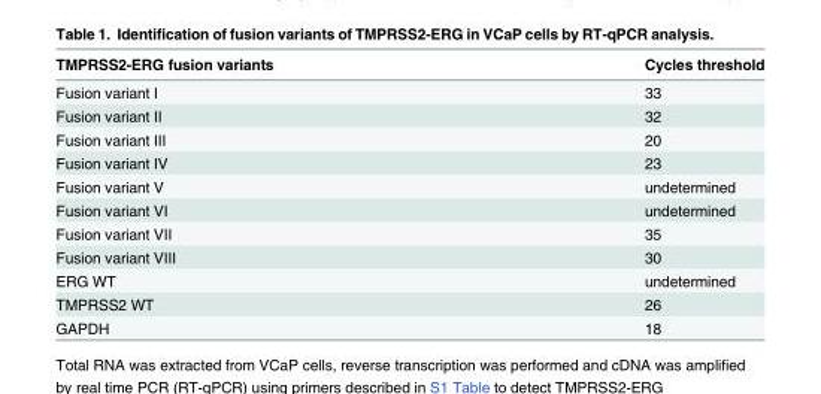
<table><thead><tr><td>TMPRSS2-ERG fusion variants</td><td>Cycles threshold</td></tr></thead><tbody><tr><td>Fusion variant I</td><td>33</td></tr><tr><td>Fusion variant II</td><td>32</td></tr><tr><td>Fusion variant III</td><td>20</td></tr><tr><td>Fusion variant IV</td><td>23</td></tr><tr><td>Fusion variant V</td><td>undetermined</td></tr><tr><td>Fusion variant VI</td><td>undetermined</td></tr><tr><td>Fusion variant VII</td><td>35</td></tr><tr><td>Fusion variant VIII</td><td>30</td></tr><tr><td>ERG WT</td><td>undetermined</td></tr><tr><td>TMPRSS2 WT</td><td>26</td></tr><tr><td>GAPDH</td><td>18</td></tr></tbody></table>